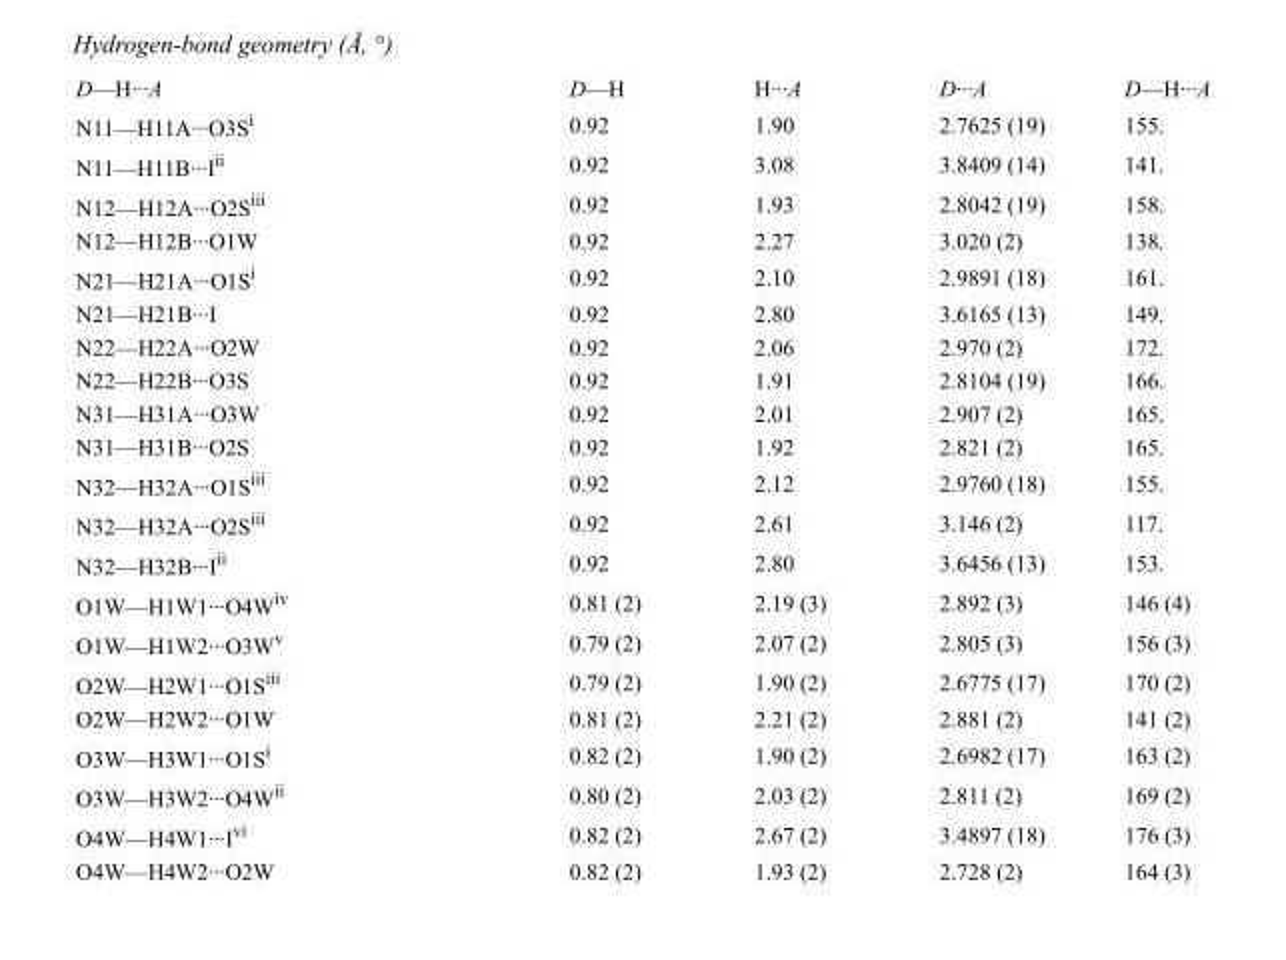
<table><tbody><tr><td>D—H···A</td><td>D—H</td><td>H···A</td><td>D···A</td><td>D—H···A</td></tr><tr><td>N11—H11A···O3S<sup>i</sup></td><td>0.92</td><td>1.90</td><td>2.7625 (19)</td><td>155.</td></tr><tr><td>N11—H11B···I<sup>ii</sup></td><td>0.92</td><td>3.08</td><td>3.8409 (14)</td><td>141.</td></tr><tr><td>N12—H12A···O2S<sup>iii</sup></td><td>0.92</td><td>1.93</td><td>2.8042 (19)</td><td>158.</td></tr><tr><td>N12—H12B···O1W</td><td>0.92</td><td>2.27</td><td>3.020 (2)</td><td>138.</td></tr><tr><td>N21—H21A···O1S<sup>i</sup></td><td>0.92</td><td>2.10</td><td>2.9891 (18)</td><td>161.</td></tr><tr><td>N21—H21B···I</td><td>0.92</td><td>2.80</td><td>3.6165 (13)</td><td>149.</td></tr><tr><td>N22—H22A···O2W</td><td>0.92</td><td>2.06</td><td>2.970 (2)</td><td>172.</td></tr><tr><td>N22—H22B···O3S</td><td>0.92</td><td>1.91</td><td>2.8104 (19)</td><td>166.</td></tr><tr><td>N31—H31A···O3W</td><td>0.92</td><td>2.01</td><td>2.907 (2)</td><td>165.</td></tr><tr><td>N31—H31B···O2S</td><td>0.92</td><td>1.92</td><td>2.821 (2)</td><td>165.</td></tr><tr><td>N32—H32A···O1S<sup>iii</sup></td><td>0.92</td><td>2.12</td><td>2.9760 (18)</td><td>155.</td></tr><tr><td>N32—H32A···O2S<sup>iii</sup></td><td>0.92</td><td>2.61</td><td>3.146 (2)</td><td>117.</td></tr><tr><td>N32—H32B···I<sup>ii</sup></td><td>0.92</td><td>2.80</td><td>3.6456 (13)</td><td>153.</td></tr><tr><td>O1W—H1W1···O4W<sup>iv</sup></td><td>0.81 (2)</td><td>2.19 (3)</td><td>2.892 (3)</td><td>146 (4)</td></tr><tr><td>O1W—H1W2···O3W<sup>v</sup></td><td>0.79 (2)</td><td>2.07 (2)</td><td>2.805 (3)</td><td>156 (3)</td></tr><tr><td>O2W—H2W1···O1S<sup>iii</sup></td><td>0.79 (2)</td><td>1.90 (2)</td><td>2.6775 (17)</td><td>170 (2)</td></tr><tr><td>O2W—H2W2···O1W</td><td>0.81 (2)</td><td>2.21 (2)</td><td>2.881 (2)</td><td>141 (2)</td></tr><tr><td>O3W—H3W1···O1S<sup>i</sup></td><td>0.82 (2)</td><td>1.90 (2)</td><td>2.6982 (17)</td><td>163 (2)</td></tr><tr><td>O3W—H3W2···O4W<sup>ii</sup></td><td>0.80 (2)</td><td>2.03 (2)</td><td>2.811 (2)</td><td>169 (2)</td></tr><tr><td>O4W—H4W1···I<sup>vi</sup></td><td>0.82 (2)</td><td>2.67 (2)</td><td>3.4897 (18)</td><td>176 (3)</td></tr><tr><td>O4W—H4W2···O2W</td><td>0.82 (2)</td><td>1.93 (2)</td><td>2.728 (2)</td><td>164 (3)</td></tr></tbody></table>